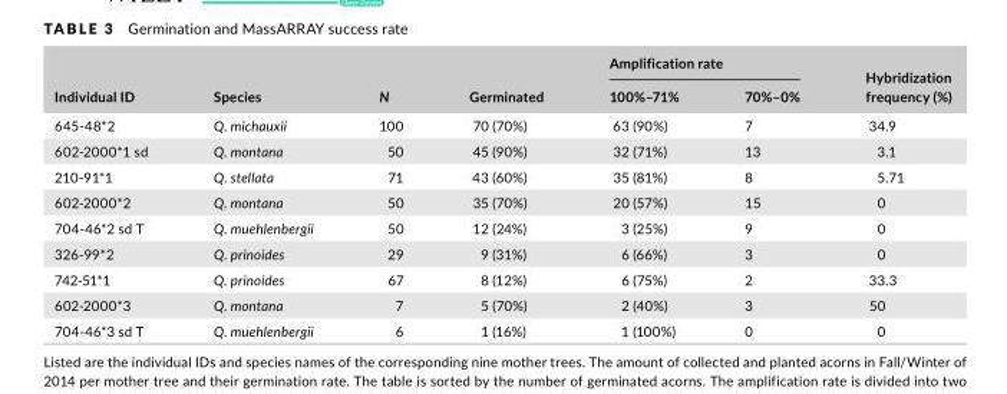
<table><thead><tr><td rowspan="2">Individual ID</td><td rowspan="2">Species</td><td rowspan="2">N</td><td rowspan="2">Germinated</td><td colspan="2">Amplification rate</td><td rowspan="2">Hybridization frequency (%)</td></tr><tr><td>100%–71%</td><td>70%–0%</td></tr></thead><tbody><tr><td>645- 48*2</td><td>Q. michauxii</td><td>100</td><td>70 (70%)</td><td>63 (90%)</td><td>7</td><td>34.9</td></tr><tr><td>602- 2000*1 sd</td><td>Q. montana</td><td>50</td><td>45 (90%)</td><td>32 (71%)</td><td>13</td><td>3.1</td></tr><tr><td>210- 91*1</td><td>Q. stellata</td><td>71</td><td>43 (60%)</td><td>35 (81%)</td><td>8</td><td>5.71</td></tr><tr><td>602- 2000*2</td><td>Q. montana</td><td>50</td><td>35 (70%)</td><td>20 (57%)</td><td>15</td><td>0</td></tr><tr><td>704- 46*2 sd T</td><td>Q. muehlenbergii</td><td>50</td><td>12 (24%)</td><td>3 (25%)</td><td>9</td><td>0</td></tr><tr><td>326- 99*2</td><td>Q. prinoides</td><td>29</td><td>9 (31%)</td><td>6 (66%)</td><td>3</td><td>0</td></tr><tr><td>742- 51*1</td><td>Q. prinoides</td><td>67</td><td>8 (12%)</td><td>6 (75%)</td><td>2</td><td>33.3</td></tr><tr><td>602- 2000*3</td><td>Q. montana</td><td>7</td><td>5 (70%)</td><td>2 (40%)</td><td>3</td><td>50</td></tr><tr><td>704- 46*3 sd T</td><td>Q. muehlenbergii</td><td>6</td><td>1 (16%)</td><td>1 (100%)</td><td>0</td><td>0</td></tr></tbody></table>